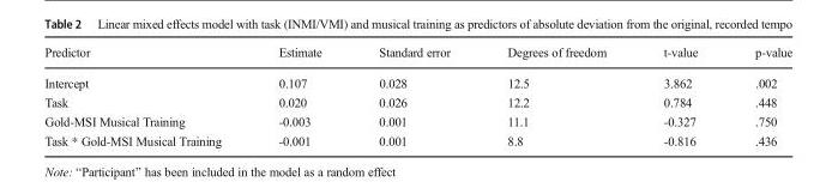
<table><thead><tr><td>Predictor</td><td>Estimate</td><td>Standard error</td><td>Degrees of freedom</td><td>t-value</td><td>p-value</td></tr></thead><tbody><tr><td>Intercept</td><td>0.107</td><td>0.028</td><td>12.5</td><td>3.862</td><td>.002</td></tr><tr><td>Task</td><td>0.020</td><td>0.026</td><td>12.2</td><td>0.784</td><td>.448</td></tr><tr><td>Gold-MSI Musical Training</td><td>-0.003</td><td>0.001</td><td>11.1</td><td>-0.327</td><td>.750</td></tr><tr><td>Task * Gold-MSI Musical Training</td><td>-0.001</td><td>0.001</td><td>8.8</td><td>-0.816</td><td>.436</td></tr></tbody></table>